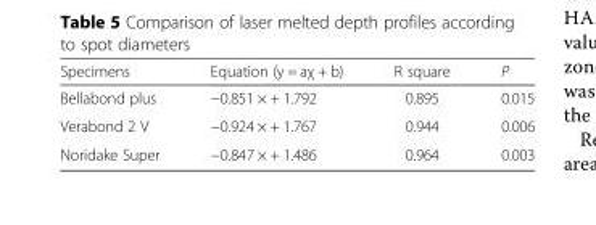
<table><thead><tr><td>Specimens</td><td>Equation (y = aχ + b)</td><td>R square</td><td>P</td></tr></thead><tbody><tr><td>Bellabond plus</td><td>−0.851 × + 1.792</td><td>0.895</td><td>0.015</td></tr><tr><td>Verabond 2 V</td><td>−0.924 × + 1.767</td><td>0.944</td><td>0.006</td></tr><tr><td>Noridake Super</td><td>−0.847 × + 1.486</td><td>0.964</td><td>0.003</td></tr></tbody></table>